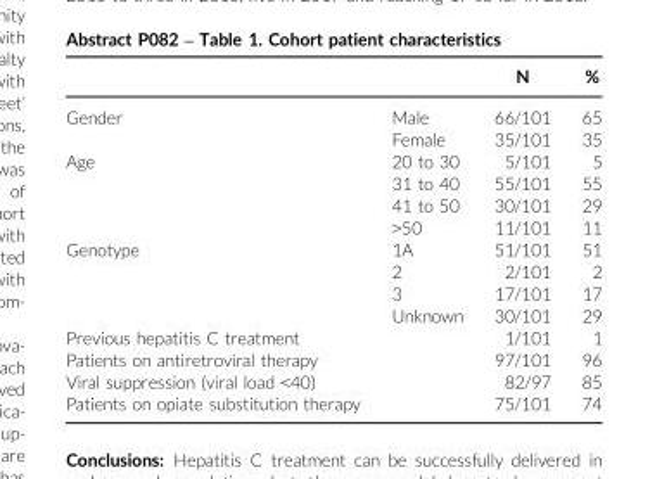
<table><thead><tr><td></td><td></td><td>N</td><td>%</td></tr></thead><tbody><tr><td rowspan="2">Gender</td><td>Male</td><td>66/101</td><td>65</td></tr><tr><td>Female</td><td>35/101</td><td>35</td></tr><tr><td rowspan="4">Age</td><td>20 to 30</td><td>5/101</td><td>5</td></tr><tr><td>31 to 40</td><td>55/101</td><td>55</td></tr><tr><td>41 to 50</td><td>30/101</td><td>29</td></tr><tr><td>&gt;50</td><td>11/101</td><td>11</td></tr><tr><td rowspan="4">Genotype</td><td>1A</td><td>51/101</td><td>51</td></tr><tr><td>2</td><td>2/101</td><td>2</td></tr><tr><td>3</td><td>17/101</td><td>17</td></tr><tr><td>Unknown</td><td>30/101</td><td>29</td></tr><tr><td>Previous hepatitis C treatment</td><td></td><td>1/101</td><td>1</td></tr><tr><td>Patients on antiretroviral therapy</td><td></td><td>97/101</td><td>96</td></tr><tr><td>Viral suppression (viral load &lt;40)</td><td></td><td>82/97</td><td>85</td></tr><tr><td>Patients on opiate substitution therapy</td><td></td><td>75/101</td><td>74</td></tr></tbody></table>